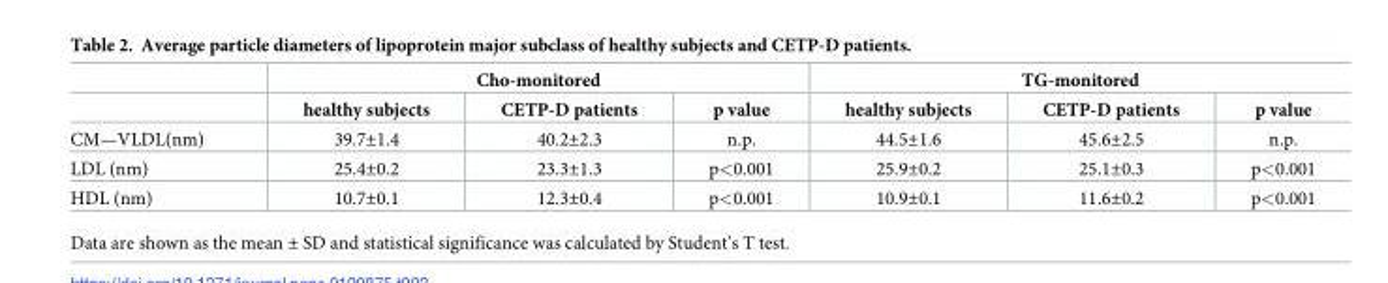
<table><thead><tr><td rowspan="2"></td><td colspan="3">Cho-monitored</td><td colspan="3">TG-monitored</td></tr><tr><td>healthy subjects</td><td>CETP-D patients</td><td>p value</td><td>healthy subjects</td><td>CETP-D patients</td><td>p value</td></tr></thead><tbody><tr><td>CM—VLDL(nm)</td><td>39.7±1.4</td><td>40.2±2.3</td><td>n.p.</td><td>44.5±1.6</td><td>45.6±2.5</td><td>n.p.</td></tr><tr><td>LDL (nm)</td><td>25.4±0.2</td><td>23.3±1.3</td><td>p&lt;0.001</td><td>25.9±0.2</td><td>25.1±0.3</td><td>p&lt;0.001</td></tr><tr><td>HDL (nm)</td><td>10.7±0.1</td><td>12.3±0.4</td><td>p&lt;0.001</td><td>10.9±0.1</td><td>11.6±0.2</td><td>p&lt;0.001</td></tr></tbody></table>